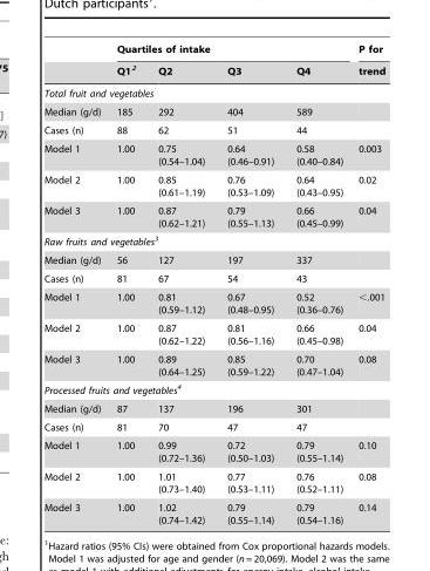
<table><thead><tr><td rowspan="2"></td><td colspan="4">Quartiles of intake</td><td rowspan="2">P for trend</td></tr><tr><td>Q1<sup>2</sup></td><td>Q2</td><td>Q3</td><td>Q4</td></tr></thead><tbody><tr><td colspan="6">Total fruit and vegetables</td></tr><tr><td>Median (g/d)</td><td>185</td><td>292</td><td>404</td><td>589</td><td></td></tr><tr><td>Cases (n)</td><td>88</td><td>62</td><td>51</td><td>44</td><td></td></tr><tr><td>Model 1</td><td>1.00</td><td>0.75 (0.54–1.04)</td><td>0.64 (0.46–0.91)</td><td>0.58 (0.40–0.84)</td><td>0.003</td></tr><tr><td>Model 2</td><td>1.00</td><td>0.85 (0.61–1.19)</td><td>0.76 (0.53–1.09)</td><td>0.64 (0.43–0.95)</td><td>0.02</td></tr><tr><td>Model 3</td><td>1.00</td><td>0.87 (0.62–1.21)</td><td>0.79 (0.55–1.13)</td><td>0.66 (0.45–0.99)</td><td>0.04</td></tr><tr><td colspan="6">Raw fruits and vegetables3</td></tr><tr><td>Median (g/d)</td><td>56</td><td>127</td><td>197</td><td>337</td><td></td></tr><tr><td>Cases (n)</td><td>81</td><td>67</td><td>54</td><td>43</td><td></td></tr><tr><td>Model 1</td><td>1.00</td><td>0.81 (0.59–1.12)</td><td>0.67 (0.48–0.95)</td><td>0.52 (0.36–0.76)</td><td>&lt;.001</td></tr><tr><td>Model 2</td><td>1.00</td><td>0.87 (0.62–1.22)</td><td>0.81 (0.56–1.16)</td><td>0.66 (0.45–0.98)</td><td>0.04</td></tr><tr><td>Model 3</td><td>1.00</td><td>0.89 (0.64–1.25)</td><td>0.85 (0.59–1.22)</td><td>0.70 (0.47–1.04)</td><td>0.08</td></tr><tr><td colspan="6">Processed fruits and vegetables4</td></tr><tr><td>Median (g/d)</td><td>87</td><td>137</td><td>196</td><td>301</td><td></td></tr><tr><td>Cases (n)</td><td>81</td><td>70</td><td>47</td><td>47</td><td></td></tr><tr><td>Model 1</td><td>1.00</td><td>0.99 (0.72–1.36)</td><td>0.72 (0.50–1.03)</td><td>0.79 (0.55–1.14)</td><td>0.10</td></tr><tr><td>Model 2</td><td>1.00</td><td>1.01 (0.73–1.40)</td><td>0.77 (0.53–1.11)</td><td>0.76 (0.52–1.11)</td><td>0.08</td></tr><tr><td>Model 3</td><td>1.00</td><td>1.02 (0.74–1.42)</td><td>0.79 (0.55–1.14)</td><td>0.79 (0.54–1.16)</td><td>0.14</td></tr></tbody></table>